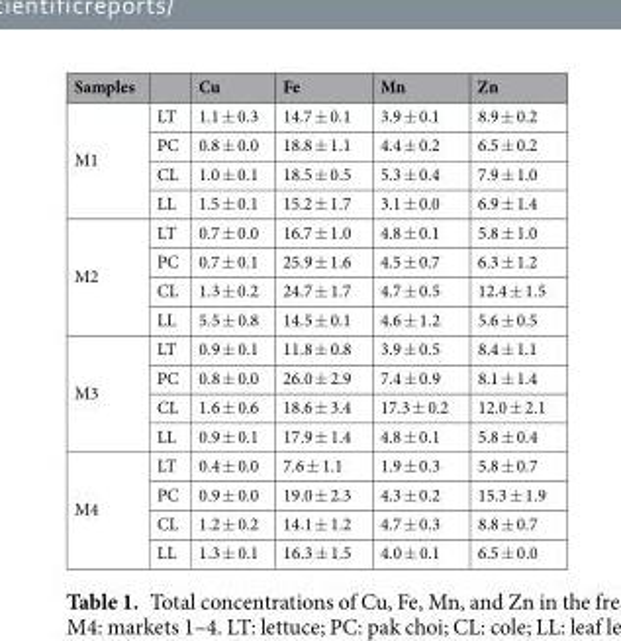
<table><thead><tr><td>Samples</td><td></td><td>Cu</td><td>Fe</td><td>Mn</td><td>Zn</td></tr></thead><tbody><tr><td rowspan="4">M1</td><td>LT</td><td>1.1 ± 0.3</td><td>14.7 ± 0.1</td><td>3.9 ± 0.1</td><td>8.9 ± 0.2</td></tr><tr><td>PC</td><td>0.8 ± 0.0</td><td>18.8 ± 1.1</td><td>4.4 ± 0.2</td><td>6.5 ± 0.2</td></tr><tr><td>CL</td><td>1.0 ± 0.1</td><td>18.5 ± 0.5</td><td>5.3 ± 0.4</td><td>7.9 ± 1.0</td></tr><tr><td>LL</td><td>1.5 ± 0.1</td><td>15.2 ± 1.7</td><td>3.1 ± 0.0</td><td>6.9 ± 1.4</td></tr><tr><td rowspan="4">M2</td><td>LT</td><td>0.7 ± 0.0</td><td>16.7 ± 1.0</td><td>4.8 ± 0.1</td><td>5.8 ± 1.0</td></tr><tr><td>PC</td><td>0.7 ± 0.1</td><td>25.9 ± 1.6</td><td>4.5 ± 0.7</td><td>6.3 ± 1.2</td></tr><tr><td>CL</td><td>1.3 ± 0.2</td><td>24.7 ± 1.7</td><td>4.7 ± 0.5</td><td>12.4 ± 1.5</td></tr><tr><td>LL</td><td>5.5 ± 0.8</td><td>14.5 ± 0.1</td><td>4.6 ± 1.2</td><td>5.6 ± 0.5</td></tr><tr><td rowspan="4">M3</td><td>LT</td><td>0.9 ± 0.1</td><td>11.8 ± 0.8</td><td>3.9 ± 0.5</td><td>8.4 ± 1.1</td></tr><tr><td>PC</td><td>0.8 ± 0.0</td><td>26.0 ± 2.9</td><td>7.4 ± 0.9</td><td>8.1 ± 1.4</td></tr><tr><td>CL</td><td>1.6 ± 0.6</td><td>18.6 ± 3.4</td><td>17.3 ± 0.2</td><td>12.0 ± 2.1</td></tr><tr><td>LL</td><td>0.9 ± 0.1</td><td>17.9 ± 1.4</td><td>4.8 ± 0.1</td><td>5.8 ± 0.4</td></tr><tr><td rowspan="4">M4</td><td>LT</td><td>0.4 ± 0.0</td><td>7.6 ± 1.1</td><td>1.9 ± 0.3</td><td>5.8 ± 0.7</td></tr><tr><td>PC</td><td>0.9 ± 0.0</td><td>19.0 ± 2.3</td><td>4.3 ± 0.2</td><td>15.3 ± 1.9</td></tr><tr><td>CL</td><td>1.2 ± 0.2</td><td>14.1 ± 1.2</td><td>4.7 ± 0.3</td><td>8.8 ± 0.7</td></tr><tr><td>LL</td><td>1.3 ± 0.1</td><td>16.3 ± 1.5</td><td>4.0 ± 0.1</td><td>6.5 ± 0.0</td></tr></tbody></table>